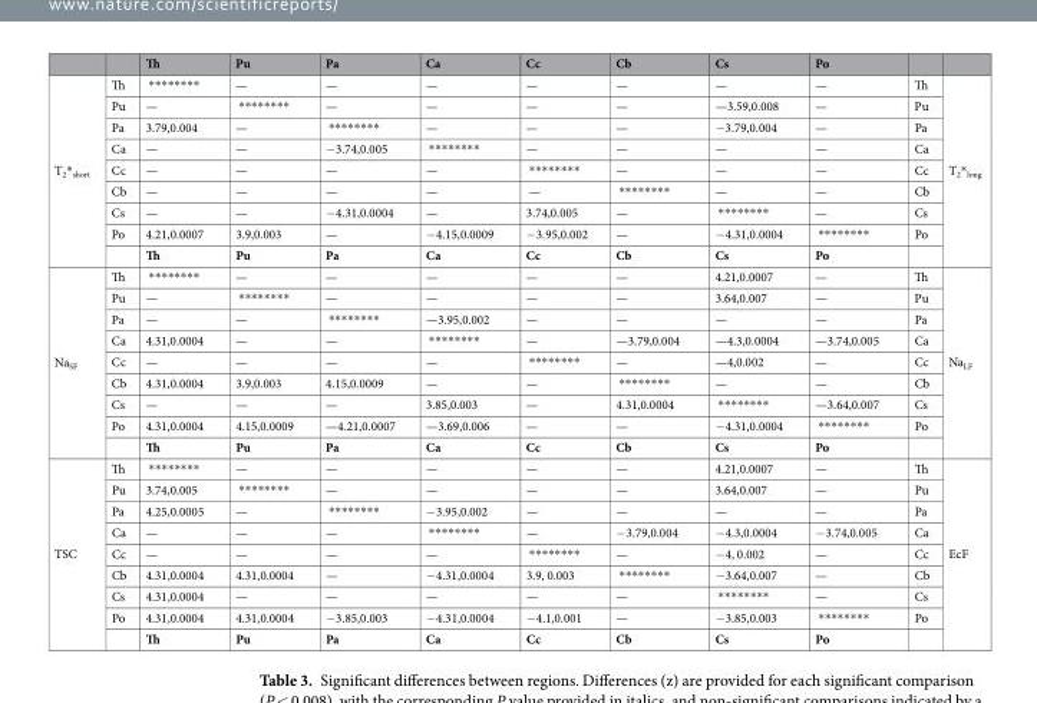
<table><thead><tr><td></td><td></td><td>Th</td><td>Pu</td><td>Pa</td><td>Ca</td><td>Cc</td><td>Cb</td><td>Cs</td><td>Po</td><td></td><td></td></tr></thead><tbody><tr><td rowspan="9">T<sub>2</sub>*<sub>short</sub></td><td>Th</td><td>********</td><td>—</td><td>—</td><td>—</td><td>—</td><td>—</td><td>—</td><td>—</td><td>Th</td><td rowspan="9">T<sub>2</sub>*<sub>long</sub></td></tr><tr><td>Pu</td><td>—</td><td>********</td><td>—</td><td>—</td><td>—</td><td>—</td><td>—3.59,0.008</td><td>—</td><td>Pu</td></tr><tr><td>Pa</td><td>3.79,0.004</td><td>—</td><td>********</td><td>—</td><td>—</td><td>—</td><td>−3.79,0.004</td><td>—</td><td>Pa</td></tr><tr><td>Ca</td><td>—</td><td>—</td><td>−3.74,0.005</td><td>********</td><td>—</td><td>—</td><td>—</td><td>—</td><td>Ca</td></tr><tr><td>Cc</td><td>—</td><td>—</td><td>—</td><td>—</td><td>********</td><td>—</td><td>—</td><td>—</td><td>Cc</td></tr><tr><td>Cb</td><td>—</td><td>—</td><td>—</td><td>—</td><td>—</td><td>********</td><td>—</td><td>—</td><td>Cb</td></tr><tr><td>Cs</td><td>—</td><td>—</td><td>−4.31,0.0004</td><td>—</td><td>3.74,0.005</td><td>—</td><td>********</td><td>—</td><td>Cs</td></tr><tr><td>Po</td><td>4.21,0.0007</td><td>3.9,0.003</td><td>—</td><td>−4.15,0.0009</td><td>−3.95,0.002</td><td>—</td><td>−4.31,0.0004</td><td>********</td><td>Po</td></tr><tr><td></td><td>Th</td><td>Pu</td><td>Pa</td><td>Ca</td><td>Cc</td><td>Cb</td><td>Cs</td><td>Po</td><td></td></tr><tr><td rowspan="9">Na<sub>SF</sub></td><td>Th</td><td>********</td><td>—</td><td>—</td><td>—</td><td>—</td><td>—</td><td>4.21,0.0007</td><td>—</td><td>Th</td><td rowspan="9">Na<sub>LF</sub></td></tr><tr><td>Pu</td><td>—</td><td>********</td><td>—</td><td>—</td><td>—</td><td>—</td><td>3.64,0.007</td><td>—</td><td>Pu</td></tr><tr><td>Pa</td><td>—</td><td>—</td><td>********</td><td>—3.95,0.002</td><td>—</td><td>—</td><td>—</td><td>—</td><td>Pa</td></tr><tr><td>Ca</td><td>4.31,0.0004</td><td>—</td><td>—</td><td>********</td><td>—</td><td>—3.79,0.004</td><td>—4.3,0.0004</td><td>—3.74,0.005</td><td>Ca</td></tr><tr><td>Cc</td><td>—</td><td>—</td><td>—</td><td>—</td><td>********</td><td>—</td><td>—4,0.002</td><td>—</td><td>Cc</td></tr><tr><td>Cb</td><td>4.31,0.0004</td><td>3.9,0.003</td><td>4.15,0.0009</td><td>—</td><td>—</td><td>********</td><td>—</td><td>—</td><td>Cb</td></tr><tr><td>Cs</td><td>—</td><td>—</td><td>—</td><td>3.85,0.003</td><td>—</td><td>4.31,0.0004</td><td>********</td><td>—3.64,0.007</td><td>Cs</td></tr><tr><td>Po</td><td>4.31,0.0004</td><td>4.15,0.0009</td><td>—4.21,0.0007</td><td>—3.69,0.006</td><td>—</td><td>—</td><td>−4.31,0.0004</td><td>********</td><td>Po</td></tr><tr><td></td><td>Th</td><td>Pu</td><td>Pa</td><td>Ca</td><td>Cc</td><td>Cb</td><td>Cs</td><td>Po</td><td></td></tr><tr><td rowspan="9">TSC</td><td>Th</td><td>********</td><td>—</td><td>—</td><td>—</td><td>—</td><td>—</td><td>4.21,0.0007</td><td>—</td><td>Th</td><td rowspan="9">EcF</td></tr><tr><td>Pu</td><td>3.74,0.005</td><td>********</td><td>—</td><td>—</td><td>—</td><td>—</td><td>3.64,0.007</td><td>—</td><td>Pu</td></tr><tr><td>Pa</td><td>4.25,0.0005</td><td>—</td><td>********</td><td>−3.95,0.002</td><td>—</td><td>—</td><td>—</td><td>—</td><td>Pa</td></tr><tr><td>Ca</td><td>—</td><td>—</td><td>—</td><td>********</td><td>—</td><td>−3.79,0.004</td><td>−4.3,0.0004</td><td>−3.74,0.005</td><td>Ca</td></tr><tr><td>Cc</td><td>—</td><td>—</td><td>—</td><td>—</td><td>********</td><td>—</td><td>−4, 0.002</td><td>—</td><td>Cc</td></tr><tr><td>Cb</td><td>4.31,0.0004</td><td>4.31,0.0004</td><td>—</td><td>−4.31,0.0004</td><td>3.9, 0.003</td><td>********</td><td>−3.64,0.007</td><td>—</td><td>Cb</td></tr><tr><td>Cs</td><td>4.31,0.0004</td><td>—</td><td>—</td><td>—</td><td>—</td><td>—</td><td>********</td><td>—</td><td>Cs</td></tr><tr><td>Po</td><td>4.31,0.0004</td><td>4.31,0.0004</td><td>−3.85,0.003</td><td>−4.31,0.0004</td><td>−4.1,0.001</td><td>—</td><td>−3.85,0.003</td><td>********</td><td>Po</td></tr><tr><td></td><td>Th</td><td>Pu</td><td>Pa</td><td>Ca</td><td>Cc</td><td>Cb</td><td>Cs</td><td>Po</td><td></td></tr></tbody></table>